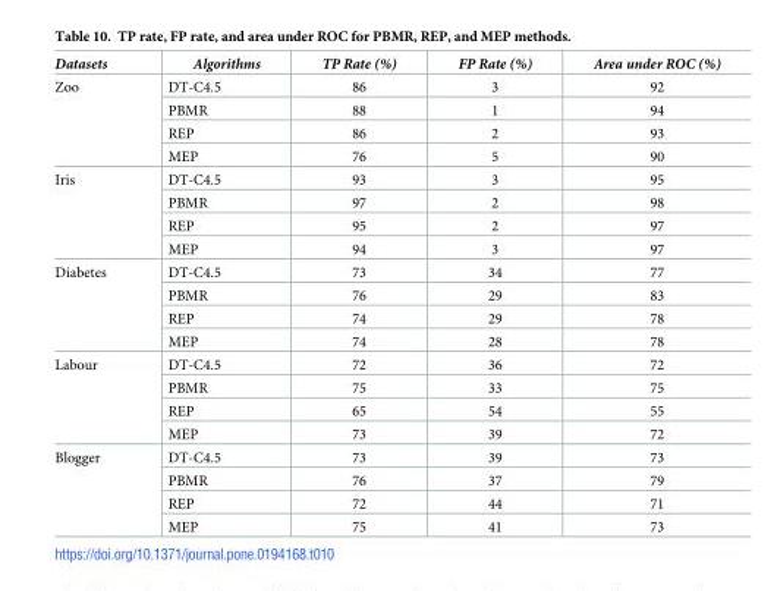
<table><thead><tr><td>Datasets</td><td>Algorithms</td><td>TP Rate (%)</td><td>FP Rate (%)</td><td>Area under ROC (%)</td></tr></thead><tbody><tr><td rowspan="4">Zoo</td><td>DT-C4.5</td><td>86</td><td>3</td><td>92</td></tr><tr><td>PBMR</td><td>88</td><td>1</td><td>94</td></tr><tr><td>REP</td><td>86</td><td>2</td><td>93</td></tr><tr><td>MEP</td><td>76</td><td>5</td><td>90</td></tr><tr><td rowspan="4">Iris</td><td>DT-C4.5</td><td>93</td><td>3</td><td>95</td></tr><tr><td>PBMR</td><td>97</td><td>2</td><td>98</td></tr><tr><td>REP</td><td>95</td><td>2</td><td>97</td></tr><tr><td>MEP</td><td>94</td><td>3</td><td>97</td></tr><tr><td rowspan="4">Diabetes</td><td>DT-C4.5</td><td>73</td><td>34</td><td>77</td></tr><tr><td>PBMR</td><td>76</td><td>29</td><td>83</td></tr><tr><td>REP</td><td>74</td><td>29</td><td>78</td></tr><tr><td>MEP</td><td>74</td><td>28</td><td>78</td></tr><tr><td rowspan="4">Labour</td><td>DT-C4.5</td><td>72</td><td>36</td><td>72</td></tr><tr><td>PBMR</td><td>75</td><td>33</td><td>75</td></tr><tr><td>REP</td><td>65</td><td>54</td><td>55</td></tr><tr><td>MEP</td><td>73</td><td>39</td><td>72</td></tr><tr><td rowspan="4">Blogger</td><td>DT-C4.5</td><td>73</td><td>39</td><td>73</td></tr><tr><td>PBMR</td><td>76</td><td>37</td><td>79</td></tr><tr><td>REP</td><td>72</td><td>44</td><td>71</td></tr><tr><td>MEP</td><td>75</td><td>41</td><td>73</td></tr></tbody></table>